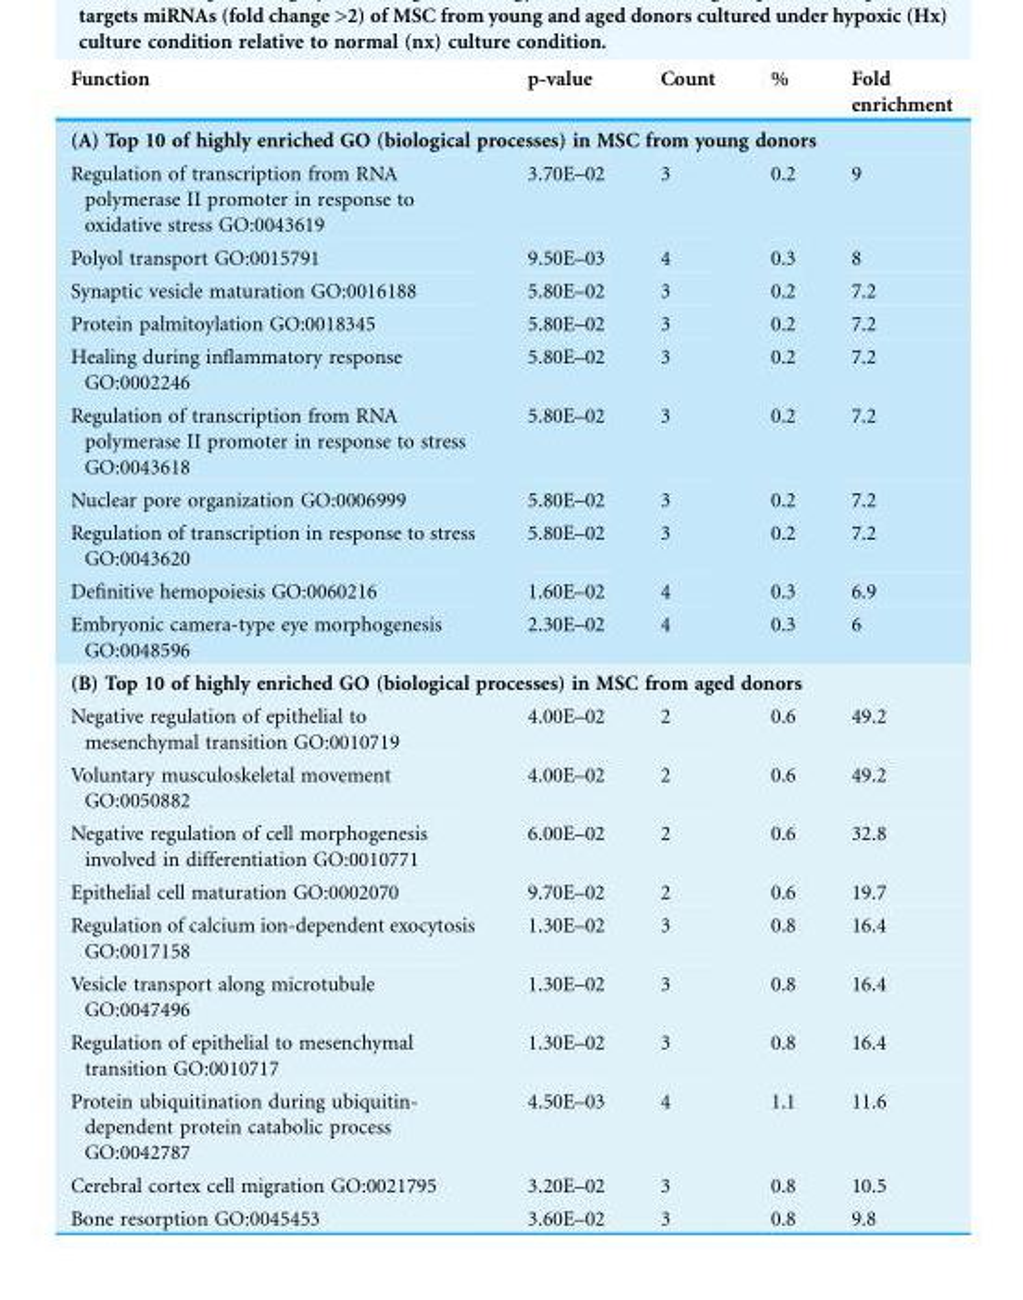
<table><thead><tr><td>Function</td><td>p-value</td><td>Count</td><td>%</td><td>Fold enrichment</td></tr></thead><tbody><tr><td colspan="5">(A) Top 10 of highly enriched GO (biological processes) in MSC from young donors</td></tr><tr><td>Regulation of transcription from RNA polymerase II promoter in response to oxidative stress GO:0043619</td><td>3.70E–02</td><td>3</td><td>0.2</td><td>9</td></tr><tr><td>Polyol transport GO:0015791</td><td>9.50E–03</td><td>4</td><td>0.3</td><td>8</td></tr><tr><td>Synaptic vesicle maturation GO:0016188</td><td>5.80E–02</td><td>3</td><td>0.2</td><td>7.2</td></tr><tr><td>Protein palmitoylation GO:0018345</td><td>5.80E–02</td><td>3</td><td>0.2</td><td>7.2</td></tr><tr><td>Healing during inflammatory response GO:0002246</td><td>5.80E–02</td><td>3</td><td>0.2</td><td>7.2</td></tr><tr><td>Regulation of transcription from RNA polymerase II promoter in response to stress GO:0043618</td><td>5.80E–02</td><td>3</td><td>0.2</td><td>7.2</td></tr><tr><td>Nuclear pore organization GO:0006999</td><td>5.80E–02</td><td>3</td><td>0.2</td><td>7.2</td></tr><tr><td>Regulation of transcription in response to stress GO:0043620</td><td>5.80E–02</td><td>3</td><td>0.2</td><td>7.2</td></tr><tr><td>Definitive hemopoiesis GO:0060216</td><td>1.60E–02</td><td>4</td><td>0.3</td><td>6.9</td></tr><tr><td>Embryonic camera-type eye morphogenesis GO:0048596</td><td>2.30E–02</td><td>4</td><td>0.3</td><td>6</td></tr><tr><td colspan="5">(B) Top 10 of highly enriched GO (biological processes) in MSC from aged donors</td></tr><tr><td>Negative regulation of epithelial to mesenchymal transition GO:0010719</td><td>4.00E–02</td><td>2</td><td>0.6</td><td>49.2</td></tr><tr><td>Voluntary musculoskeletal movement GO:0050882</td><td>4.00E–02</td><td>2</td><td>0.6</td><td>49.2</td></tr><tr><td>Negative regulation of cell morphogenesis involved in differentiation GO:0010771</td><td>6.00E–02</td><td>2</td><td>0.6</td><td>32.8</td></tr><tr><td>Epithelial cell maturation GO:0002070</td><td>9.70E–02</td><td>2</td><td>0.6</td><td>19.7</td></tr><tr><td>Regulation of calcium ion-dependent exocytosis GO:0017158</td><td>1.30E–02</td><td>3</td><td>0.8</td><td>16.4</td></tr><tr><td>Vesicle transport along microtubule GO:0047496</td><td>1.30E–02</td><td>3</td><td>0.8</td><td>16.4</td></tr><tr><td>Regulation of epithelial to mesenchymal transition GO:0010717</td><td>1.30E–02</td><td>3</td><td>0.8</td><td>16.4</td></tr><tr><td>Protein ubiquitination during ubiquitin- dependent protein catabolic process GO:0042787</td><td>4.50E–03</td><td>4</td><td>1.1</td><td>11.6</td></tr><tr><td>Cerebral cortex cell migration GO:0021795</td><td>3.20E–02</td><td>3</td><td>0.8</td><td>10.5</td></tr><tr><td>Bone resorption GO:0045453</td><td>3.60E–02</td><td>3</td><td>0.8</td><td>9.8</td></tr></tbody></table>